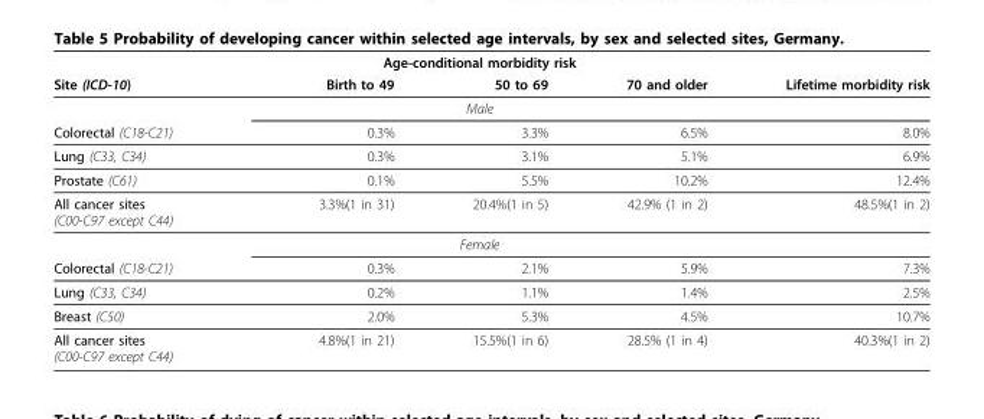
<table><thead><tr><td rowspan="2">Site (ICD-10)</td><td colspan="3">Age-conditional morbidity risk</td><td rowspan="2">Lifetime morbidity risk</td></tr><tr><td>Birth to 49</td><td>50 to 69</td><td>70 and older</td></tr></thead><tbody><tr><td></td><td colspan="3">Male</td><td></td></tr><tr><td>Colorectal (C18-C21)</td><td>0.3%</td><td>3.3%</td><td>6.5%</td><td>8.0%</td></tr><tr><td>Lung (C33, C34)</td><td>0.3%</td><td>3.1%</td><td>5.1%</td><td>6.9%</td></tr><tr><td>Prostate (C61)</td><td>0.1%</td><td>5.5%</td><td>10.2%</td><td>12.4%</td></tr><tr><td rowspan="2">All cancer sites (C00-C97 except C44)</td><td>3.3%(1 in 31)</td><td>20.4%(1 in 5)</td><td>42.9% (1 in 2)</td><td>48.5%(1 in 2)</td></tr><tr><td colspan="3">Female</td><td></td></tr><tr><td>Colorectal (C18-C21)</td><td>0.3%</td><td>2.1%</td><td>5.9%</td><td>7.3%</td></tr><tr><td>Lung (C33, C34)</td><td>0.2%</td><td>1.1%</td><td>1.4%</td><td>2.5%</td></tr><tr><td>Breast (C50)</td><td>2.0%</td><td>5.3%</td><td>4.5%</td><td>10.7%</td></tr><tr><td>All cancer sites (C00-C97 except C44)</td><td>4.8%(1 in 21)</td><td>15.5%(1 in 6)</td><td>28.5% (1 in 4)</td><td>40.3%(1 in 2)</td></tr></tbody></table>